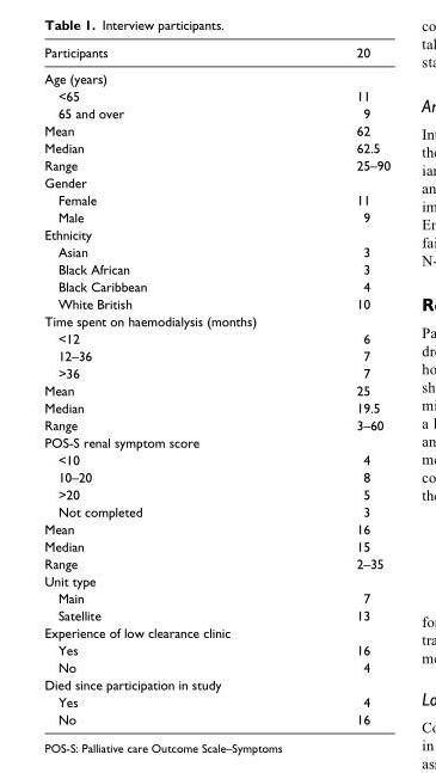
<table><thead><tr><td>Participants</td><td>20</td></tr></thead><tbody><tr><td colspan="2">Age (years)</td></tr><tr><td>&lt;65</td><td>11</td></tr><tr><td>65 and over</td><td>9</td></tr><tr><td>Mean</td><td>62</td></tr><tr><td>Median</td><td>62.5</td></tr><tr><td>Range</td><td>25–90</td></tr><tr><td colspan="2">Gender</td></tr><tr><td>Female</td><td>11</td></tr><tr><td>Male</td><td>9</td></tr><tr><td colspan="2">Ethnicity</td></tr><tr><td>Asian</td><td>3</td></tr><tr><td>Black African</td><td>3</td></tr><tr><td>Black Caribbean</td><td>4</td></tr><tr><td>White British</td><td>10</td></tr><tr><td colspan="2">Time spent on haemodialysis (months)</td></tr><tr><td>&lt;12</td><td>6</td></tr><tr><td>12–36</td><td>7</td></tr><tr><td>&gt;36</td><td>7</td></tr><tr><td>Mean</td><td>25</td></tr><tr><td>Median</td><td>19.5</td></tr><tr><td>Range</td><td>3–60</td></tr><tr><td colspan="2">POS-S renal symptom score</td></tr><tr><td>&lt;10</td><td>4</td></tr><tr><td>10–20</td><td>8</td></tr><tr><td>&gt;20</td><td>5</td></tr><tr><td>Not completed</td><td>3</td></tr><tr><td>Mean</td><td>16</td></tr><tr><td>Median</td><td>15</td></tr><tr><td>Range</td><td>2–35</td></tr><tr><td colspan="2">Unit type</td></tr><tr><td>Main</td><td>7</td></tr><tr><td>Satellite</td><td>13</td></tr><tr><td colspan="2">Experience of low clearance clinic</td></tr><tr><td>Yes</td><td>16</td></tr><tr><td>No</td><td>4</td></tr><tr><td colspan="2">Died since participation in study</td></tr><tr><td>Yes</td><td>4</td></tr><tr><td>No</td><td>16</td></tr></tbody></table>